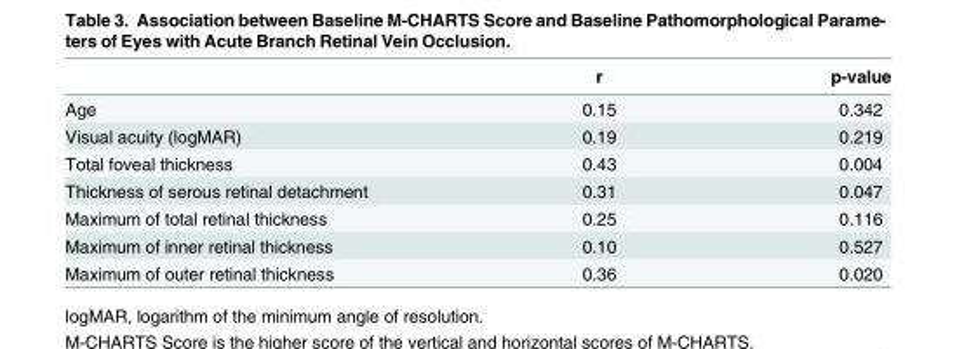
<table><thead><tr><td></td><td>r</td><td>p-value</td></tr></thead><tbody><tr><td>Age</td><td>0.15</td><td>0.342</td></tr><tr><td>Visual acuity (logMAR)</td><td>0.19</td><td>0.219</td></tr><tr><td>Total foveal thickness</td><td>0.43</td><td>0.004</td></tr><tr><td>Thickness of serous retinal detachment</td><td>0.31</td><td>0.047</td></tr><tr><td>Maximum of total retinal thickness</td><td>0.25</td><td>0.116</td></tr><tr><td>Maximum of inner retinal thickness</td><td>0.10</td><td>0.527</td></tr><tr><td>Maximum of outer retinal thickness</td><td>0.36</td><td>0.020</td></tr></tbody></table>